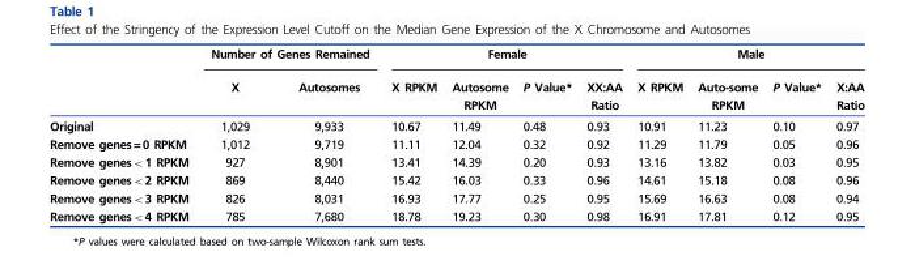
<table><thead><tr><td rowspan="2"></td><td colspan="2">Number of Genes Remained</td><td colspan="4">Female</td><td colspan="4">Male</td></tr><tr><td>X</td><td>Autosomes</td><td>X RPKM</td><td>Autosome RPKM</td><td>P Value*</td><td>XX:AA Ratio</td><td>X RPKM</td><td>Auto-some RPKM</td><td>P Value*</td><td>X:AA Ratio</td></tr></thead><tbody><tr><td>Original</td><td>1,029</td><td>9,933</td><td>10.67</td><td>11.49</td><td>0.48</td><td>0.93</td><td>10.91</td><td>11.23</td><td>0.10</td><td>0.97</td></tr><tr><td>Remove genes=0 RPKM</td><td>1,012</td><td>9,719</td><td>11.11</td><td>12.04</td><td>0.32</td><td>0.92</td><td>11.29</td><td>11.79</td><td>0.05</td><td>0.96</td></tr><tr><td>Remove genes&lt; 1 RPKM</td><td>927</td><td>8,901</td><td>13.41</td><td>14.39</td><td>0.20</td><td>0.93</td><td>13.16</td><td>13.82</td><td>0.03</td><td>0.95</td></tr><tr><td>Remove genes&lt; 2 RPKM</td><td>869</td><td>8,440</td><td>15.42</td><td>16.03</td><td>0.33</td><td>0.96</td><td>14.61</td><td>15.18</td><td>0.08</td><td>0.96</td></tr><tr><td>Remove genes&lt; 3 RPKM</td><td>826</td><td>8,031</td><td>16.93</td><td>17.77</td><td>0.25</td><td>0.95</td><td>15.69</td><td>16.63</td><td>0.08</td><td>0.94</td></tr><tr><td>Remove genes&lt; 4 RPKM</td><td>785</td><td>7,680</td><td>18.78</td><td>19.23</td><td>0.30</td><td>0.98</td><td>16.91</td><td>17.81</td><td>0.12</td><td>0.95</td></tr></tbody></table>